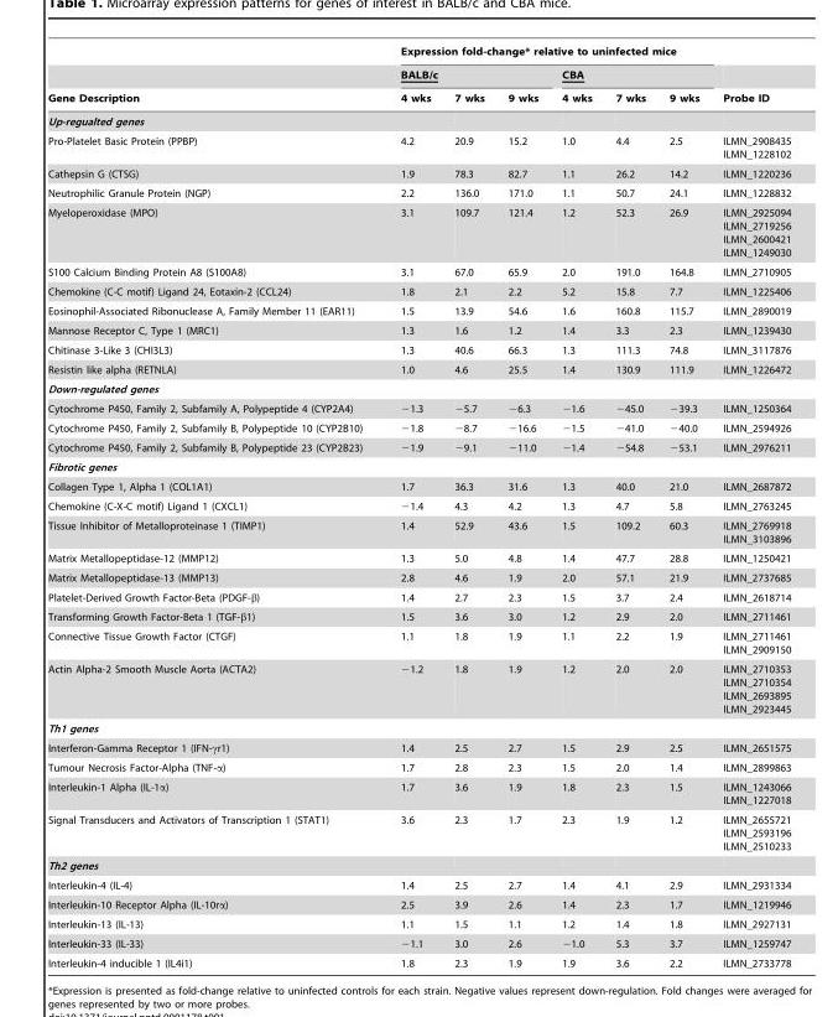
<table><thead><tr><td rowspan="3">Gene Description</td><td colspan="6">Expression fold-change* relative to uninfected mice</td><td rowspan="3">Probe ID</td></tr><tr><td colspan="3">BALB/c</td><td colspan="3">CBA</td></tr><tr><td>4 wks</td><td>7 wks</td><td>9 wks</td><td>4 wks</td><td>7 wks</td><td>9 wks</td></tr></thead><tbody><tr><td colspan="8">Up-regualted genes</td></tr><tr><td>Pro-Platelet Basic Protein (PPBP)</td><td>4.2</td><td>20.9</td><td>15.2</td><td>1.0</td><td>4.4</td><td>2.5</td><td>ILMN_2908435 ILMN_1228102</td></tr><tr><td>Cathepsin G (CTSG)</td><td>1.9</td><td>78.3</td><td>82.7</td><td>1.1</td><td>26.2</td><td>14.2</td><td>ILMN_1220236</td></tr><tr><td>Neutrophilic Granule Protein (NGP)</td><td>2.2</td><td>136.0</td><td>171.0</td><td>1.1</td><td>50.7</td><td>24.1</td><td>ILMN_1228832</td></tr><tr><td>Myeloperoxidase (MPO)</td><td>3.1</td><td>109.7</td><td>121.4</td><td>1.2</td><td>52.3</td><td>26.9</td><td>ILMN_2925094 ILMN_2719256 ILMN_2600421 ILMN_1249030</td></tr><tr><td>S100 Calcium Binding Protein A8 (S100A8)</td><td>3.1</td><td>67.0</td><td>65.9</td><td>2.0</td><td>191.0</td><td>164.8</td><td>ILMN_2710905</td></tr><tr><td>Chemokine (C-C motif) Ligand 24, Eotaxin-2 (CCL24)</td><td>1.8</td><td>2.1</td><td>2.2</td><td>5.2</td><td>15.8</td><td>7.7</td><td>ILMN_1225406</td></tr><tr><td>Eosinophil-Associated Ribonuclease A, Family Member 11 (EAR11)</td><td>1.5</td><td>13.9</td><td>54.6</td><td>1.6</td><td>160.8</td><td>115.7</td><td>ILMN_2890019</td></tr><tr><td>Mannose Receptor C, Type 1 (MRC1)</td><td>1.3</td><td>1.6</td><td>1.2</td><td>1.4</td><td>3.3</td><td>2.3</td><td>ILMN_1239430</td></tr><tr><td>Chitinase 3-Like 3 (CHI3L3)</td><td>1.3</td><td>40.6</td><td>66.3</td><td>1.3</td><td>111.3</td><td>74.8</td><td>ILMN_3117876</td></tr><tr><td>Resistin like alpha (RETNLA)</td><td>1.0</td><td>4.6</td><td>25.5</td><td>1.4</td><td>130.9</td><td>111.9</td><td>ILMN_1226472</td></tr><tr><td colspan="8">Down-regulated genes</td></tr><tr><td>Cytochrome P450, Family 2, Subfamily A, Polypeptide 4 (CYP2A4)</td><td>−1.3</td><td>−5.7</td><td>−6.3</td><td>−1.6</td><td>−45.0</td><td>−39.3</td><td>ILMN_1250364</td></tr><tr><td>Cytochrome P450, Family 2, Subfamily B, Polypeptide 10 (CYP2B10)</td><td>−1.8</td><td>−8.7</td><td>−16.6</td><td>−1.5</td><td>−41.0</td><td>−40.0</td><td>ILMN_2594926</td></tr><tr><td>Cytochrome P450, Family 2, Subfamily B, Polypeptide 23 (CYP2B23)</td><td>−1.9</td><td>−9.1</td><td>−11.0</td><td>−1.4</td><td>−54.8</td><td>−53.1</td><td>ILMN_2976211</td></tr><tr><td colspan="8">Fibrotic genes</td></tr><tr><td>Collagen Type 1, Alpha 1 (COL1A1)</td><td>1.7</td><td>36.3</td><td>31.6</td><td>1.3</td><td>40.0</td><td>21.0</td><td>ILMN_2687872</td></tr><tr><td>Chemokine (C-X-C motif) Ligand 1 (CXCL1)</td><td>−1.4</td><td>4.3</td><td>4.2</td><td>1.3</td><td>4.7</td><td>5.8</td><td>ILMN_2763245</td></tr><tr><td>Tissue Inhibitor of Metalloproteinase 1 (TIMP1)</td><td>1.4</td><td>52.9</td><td>43.6</td><td>1.5</td><td>109.2</td><td>60.3</td><td>ILMN_2769918 ILMN_3103896</td></tr><tr><td>Matrix Metallopeptidase-12 (MMP12)</td><td>1.3</td><td>5.0</td><td>4.8</td><td>1.4</td><td>47.7</td><td>28.8</td><td>ILMN_1250421</td></tr><tr><td>Matrix Metallopeptidase-13 (MMP13)</td><td>2.8</td><td>4.6</td><td>1.9</td><td>2.0</td><td>57.1</td><td>21.9</td><td>ILMN_2737685</td></tr><tr><td>Platelet-Derived Growth Factor-Beta (PDGF-β)</td><td>1.4</td><td>2.7</td><td>2.3</td><td>1.5</td><td>3.7</td><td>2.4</td><td>ILMN_2618714</td></tr><tr><td>Transforming Growth Factor-Beta 1 (TGF-β1)</td><td>1.5</td><td>3.6</td><td>3.0</td><td>1.2</td><td>2.9</td><td>2.0</td><td>ILMN_2711461</td></tr><tr><td>Connective Tissue Growth Factor (CTGF)</td><td>1.1</td><td>1.8</td><td>1.9</td><td>1.1</td><td>2.2</td><td>1.9</td><td>ILMN_2711461 ILMN_2909150</td></tr><tr><td>Actin Alpha-2 Smooth Muscle Aorta (ACTA2)</td><td>−1.2</td><td>1.8</td><td>1.9</td><td>1.2</td><td>2.0</td><td>2.0</td><td>ILMN_2710353 ILMN_2710354 ILMN_2693895 ILMN_2923445</td></tr><tr><td colspan="8">Th1 genes</td></tr><tr><td>Interferon-Gamma Receptor 1 (IFN-γr1)</td><td>1.4</td><td>2.5</td><td>2.7</td><td>1.5</td><td>2.9</td><td>2.5</td><td>ILMN_2651575</td></tr><tr><td>Tumour Necrosis Factor-Alpha (TNF-α)</td><td>1.7</td><td>2.8</td><td>2.3</td><td>1.5</td><td>2.0</td><td>1.4</td><td>ILMN_2899863</td></tr><tr><td>Interleukin-1 Alpha (IL-1α)</td><td>1.7</td><td>3.6</td><td>1.9</td><td>1.8</td><td>2.3</td><td>1.5</td><td>ILMN_1243066 ILMN_1227018</td></tr><tr><td>Signal Transducers and Activators of Transcription 1 (STAT1)</td><td>3.6</td><td>2.3</td><td>1.7</td><td>2.3</td><td>1.9</td><td>1.2</td><td>ILMN_2655721 ILMN_2593196 ILMN_2510233</td></tr><tr><td colspan="8">Th2 genes</td></tr><tr><td>Interleukin-4 (IL-4)</td><td>1.4</td><td>2.5</td><td>2.7</td><td>1.4</td><td>4.1</td><td>2.9</td><td>ILMN_2931334</td></tr><tr><td>Interleukin-10 Receptor Alpha (IL-10rα)</td><td>2.5</td><td>3.9</td><td>2.6</td><td>1.4</td><td>2.3</td><td>1.7</td><td>ILMN_1219946</td></tr><tr><td>Interleukin-13 (IL-13)</td><td>1.1</td><td>1.5</td><td>1.1</td><td>1.2</td><td>1.4</td><td>1.8</td><td>ILMN_2927131</td></tr><tr><td>Interleukin-33 (IL-33)</td><td>−1.1</td><td>3.0</td><td>2.6</td><td>−1.0</td><td>5.3</td><td>3.7</td><td>ILMN_1259747</td></tr><tr><td>Interleukin-4 inducible 1 (IL4i1)</td><td>1.8</td><td>2.3</td><td>1.9</td><td>1.9</td><td>3.6</td><td>2.2</td><td>ILMN_2733778</td></tr></tbody></table>